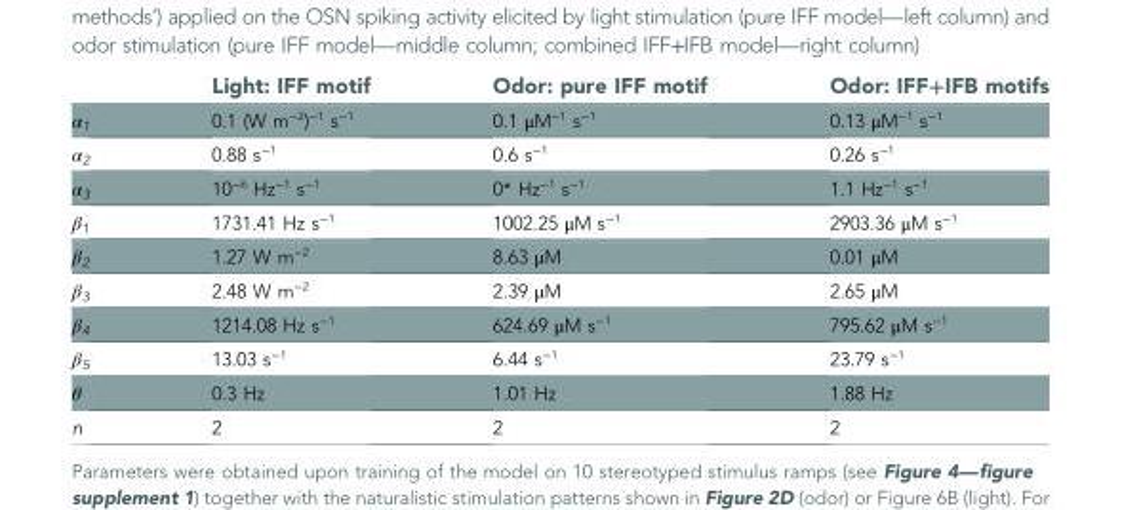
<table><thead><tr><td></td><td>Light: IFF motif</td><td>Odor: pure IFF motif</td><td>Odor: IFF+IFB motifs</td></tr></thead><tbody><tr><td>α<sub>1</sub></td><td>0.1 (W m<sup>−2</sup>)<sup>−1</sup> s<sup>−1</sup></td><td>0.1 μM<sup>−1</sup> s<sup>−1</sup></td><td>0.13 μM<sup>−1</sup> s<sup>−1</sup></td></tr><tr><td>α<sub>2</sub></td><td>0.88 s<sup>−1</sup></td><td>0.6 s<sup>−1</sup></td><td>0.26 s<sup>−1</sup></td></tr><tr><td>α<sub>3</sub></td><td>10<sup>−6</sup> Hz<sup>−1</sup> s<sup>−1</sup></td><td>0* Hz<sup>−1</sup> s<sup>−1</sup></td><td>1.1 Hz<sup>−1</sup> s<sup>−1</sup></td></tr><tr><td>β<sub>1</sub></td><td>1731.41 Hz s<sup>−1</sup></td><td>1002.25 μM s<sup>−1</sup></td><td>2903.36 μM s<sup>−1</sup></td></tr><tr><td>β<sub>2</sub></td><td>1.27 W m<sup>−2</sup></td><td>8.63 μM</td><td>0.01 μM</td></tr><tr><td>β<sub>3</sub></td><td>2.48 W m<sup>−2</sup></td><td>2.39 μM</td><td>2.65 μM</td></tr><tr><td>β<sub>4</sub></td><td>1214.08 Hz s<sup>−1</sup></td><td>624.69 μM s<sup>−1</sup></td><td>795.62 μM s<sup>−1</sup></td></tr><tr><td>β<sub>5</sub></td><td>13.03 s<sup>−1</sup></td><td>6.44 s<sup>−1</sup></td><td>23.79 s<sup>−1</sup></td></tr><tr><td>θ</td><td>0.3 Hz</td><td>1.01 Hz</td><td>1.88 Hz</td></tr><tr><td>n</td><td>2</td><td>2</td><td>2</td></tr></tbody></table>